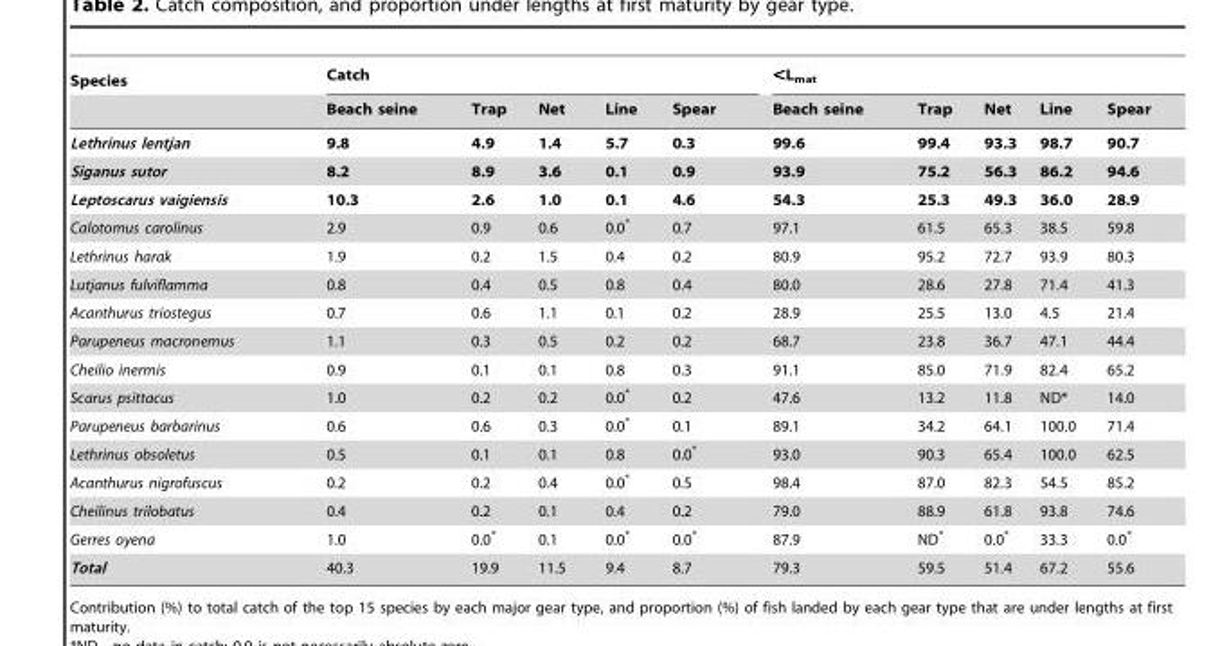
<table><thead><tr><td rowspan="2">Species</td><td colspan="5">Catch</td><td colspan="5">&lt;L<sub>mat</sub></td></tr><tr><td>Beach seine</td><td>Trap</td><td>Net</td><td>Line</td><td>Spear</td><td>Beach seine</td><td>Trap</td><td>Net</td><td>Line</td><td>Spear</td></tr></thead><tbody><tr><td>Lethrinus lentjan</td><td>9.8</td><td>4.9</td><td>1.4</td><td>5.7</td><td>0.3</td><td>99.6</td><td>99.4</td><td>93.3</td><td>98.7</td><td>90.7</td></tr><tr><td>Siganus sutor</td><td>8.2</td><td>8.9</td><td>3.6</td><td>0.1</td><td>0.9</td><td>93.9</td><td>75.2</td><td>56.3</td><td>86.2</td><td>94.6</td></tr><tr><td>Leptoscarus vaigiensis</td><td>10.3</td><td>2.6</td><td>1.0</td><td>0.1</td><td>4.6</td><td>54.3</td><td>25.3</td><td>49.3</td><td>36.0</td><td>28.9</td></tr><tr><td>Calotomus carolinus</td><td>2.9</td><td>0.9</td><td>0.6</td><td>0.0*</td><td>0.7</td><td>97.1</td><td>61.5</td><td>65.3</td><td>38.5</td><td>59.8</td></tr><tr><td>Lethrinus harak</td><td>1.9</td><td>0.2</td><td>1.5</td><td>0.4</td><td>0.2</td><td>80.9</td><td>95.2</td><td>72.7</td><td>93.9</td><td>80.3</td></tr><tr><td>Lutjanus fulviflamma</td><td>0.8</td><td>0.4</td><td>0.5</td><td>0.8</td><td>0.4</td><td>80.0</td><td>28.6</td><td>27.8</td><td>71.4</td><td>41.3</td></tr><tr><td>Acanthurus triostegus</td><td>0.7</td><td>0.6</td><td>1.1</td><td>0.1</td><td>0.2</td><td>28.9</td><td>25.5</td><td>13.0</td><td>4.5</td><td>21.4</td></tr><tr><td>Parupeneus macronemus</td><td>1.1</td><td>0.3</td><td>0.5</td><td>0.2</td><td>0.2</td><td>68.7</td><td>23.8</td><td>36.7</td><td>47.1</td><td>44.4</td></tr><tr><td>Cheilio inermis</td><td>0.9</td><td>0.1</td><td>0.1</td><td>0.8</td><td>0.3</td><td>91.1</td><td>85.0</td><td>71.9</td><td>82.4</td><td>65.2</td></tr><tr><td>Scarus psittacus</td><td>1.0</td><td>0.2</td><td>0.2</td><td>0.0*</td><td>0.2</td><td>47.6</td><td>13.2</td><td>11.8</td><td>ND*</td><td>14.0</td></tr><tr><td>Parupeneus barbarinus</td><td>0.6</td><td>0.6</td><td>0.3</td><td>0.0*</td><td>0.1</td><td>89.1</td><td>34.2</td><td>64.1</td><td>100.0</td><td>71.4</td></tr><tr><td>Lethrinus obsoletus</td><td>0.5</td><td>0.1</td><td>0.1</td><td>0.8</td><td>0.0*</td><td>93.0</td><td>90.3</td><td>65.4</td><td>100.0</td><td>62.5</td></tr><tr><td>Acanthurus nigrofuscus</td><td>0.2</td><td>0.2</td><td>0.4</td><td>0.0*</td><td>0.5</td><td>98.4</td><td>87.0</td><td>82.3</td><td>54.5</td><td>85.2</td></tr><tr><td>Cheilinus trilobatus</td><td>0.4</td><td>0.2</td><td>0.1</td><td>0.4</td><td>0.2</td><td>79.0</td><td>88.9</td><td>61.8</td><td>93.8</td><td>74.6</td></tr><tr><td>Gerres oyena</td><td>1.0</td><td>0.0*</td><td>0.1</td><td>0.0*</td><td>0.0*</td><td>87.9</td><td>ND*</td><td>0.0*</td><td>33.3</td><td>0.0*</td></tr><tr><td>Total</td><td>40.3</td><td>19.9</td><td>11.5</td><td>9.4</td><td>8.7</td><td>79.3</td><td>59.5</td><td>51.4</td><td>67.2</td><td>55.6</td></tr></tbody></table>